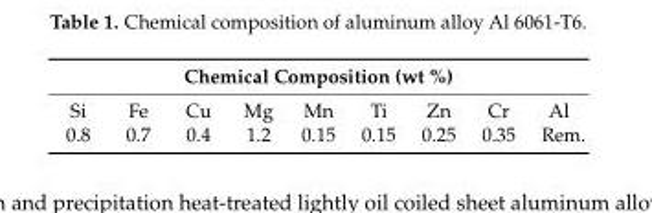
<table><thead><tr><td colspan="9">Chemical Composition (wt %)</td></tr><tr><td>Si</td><td>Fe</td><td>Cu</td><td>Mg</td><td>Mn</td><td>Ti</td><td>Zn</td><td>Cr</td><td>Al</td></tr></thead><tbody><tr><td>0.8</td><td>0.7</td><td>0.4</td><td>1.2</td><td>0.15</td><td>0.15</td><td>0.25</td><td>0.35</td><td>Rem.</td></tr></tbody></table>